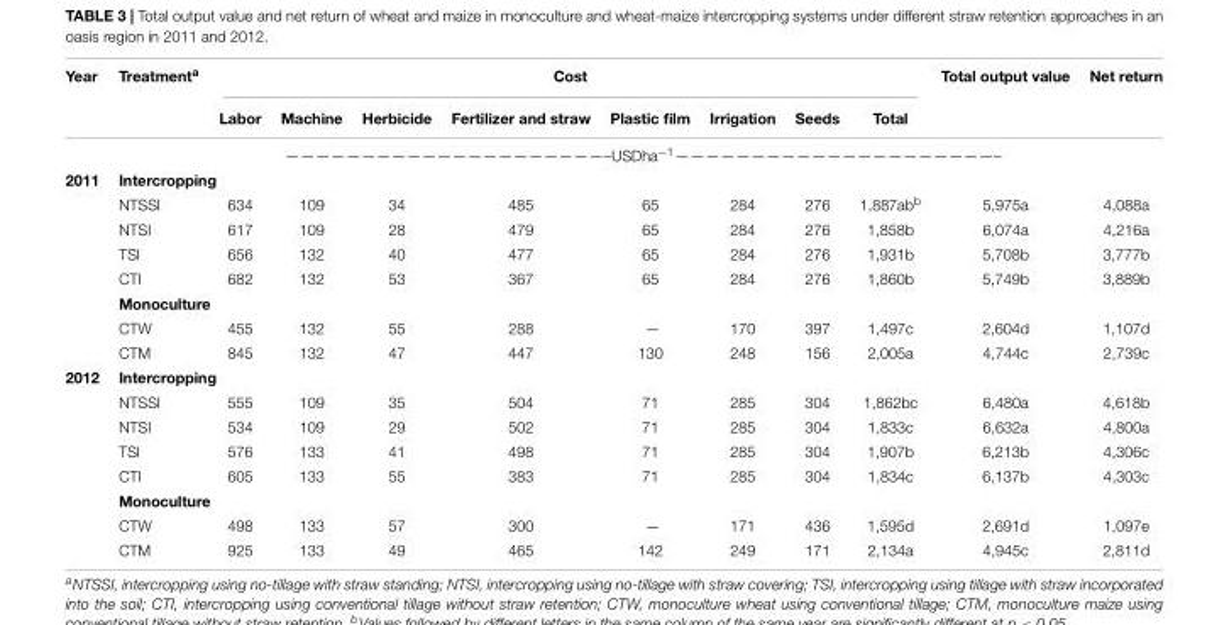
<table><thead><tr><td rowspan="2">Year</td><td rowspan="2">Treatment<sup>a</sup></td><td colspan="8">Cost</td><td rowspan="2">Total output value</td><td rowspan="2">Net return</td></tr><tr><td>Labor</td><td>Machine</td><td>Herbicide</td><td>Fertilizer and straw</td><td>Plastic film</td><td>Irrigation</td><td>Seeds</td><td>Total</td></tr></thead><tbody><tr><td></td><td colspan="11">—————————————————————–USDha<sup>−1</sup>—————————————————————–</td></tr><tr><td rowspan="8">2011</td><td colspan="11">Intercropping</td></tr><tr><td>NTSSI</td><td>634</td><td>109</td><td>34</td><td>485</td><td>65</td><td>284</td><td>276</td><td>1,887ab<sup>b</sup></td><td>5,975a</td><td>4,088a</td></tr><tr><td>NTSI</td><td>617</td><td>109</td><td>28</td><td>479</td><td>65</td><td>284</td><td>276</td><td>1,858b</td><td>6,074a</td><td>4,216a</td></tr><tr><td>TSI</td><td>656</td><td>132</td><td>40</td><td>477</td><td>65</td><td>284</td><td>276</td><td>1,931b</td><td>5,708b</td><td>3,777b</td></tr><tr><td>CTI</td><td>682</td><td>132</td><td>53</td><td>367</td><td>65</td><td>284</td><td>276</td><td>1,860b</td><td>5,749b</td><td>3,889b</td></tr><tr><td colspan="11">Monoculture</td></tr><tr><td>CTW</td><td>455</td><td>132</td><td>55</td><td>288</td><td>—</td><td>170</td><td>397</td><td>1,497c</td><td>2,604d</td><td>1,107d</td></tr><tr><td>CTM</td><td>845</td><td>132</td><td>47</td><td>447</td><td>130</td><td>248</td><td>156</td><td>2,005a</td><td>4,744c</td><td>2,739c</td></tr><tr><td rowspan="8">2012</td><td colspan="11">Intercropping</td></tr><tr><td>NTSSI</td><td>555</td><td>109</td><td>35</td><td>504</td><td>71</td><td>285</td><td>304</td><td>1,862bc</td><td>6,480a</td><td>4,618b</td></tr><tr><td>NTSI</td><td>534</td><td>109</td><td>29</td><td>502</td><td>71</td><td>285</td><td>304</td><td>1,833c</td><td>6,632a</td><td>4,800a</td></tr><tr><td>TSI</td><td>576</td><td>133</td><td>41</td><td>498</td><td>71</td><td>285</td><td>304</td><td>1,907b</td><td>6,213b</td><td>4,306c</td></tr><tr><td>CTI</td><td>605</td><td>133</td><td>55</td><td>383</td><td>71</td><td>285</td><td>304</td><td>1,834c</td><td>6,137b</td><td>4,303c</td></tr><tr><td colspan="11">Monoculture</td></tr><tr><td>CTW</td><td>498</td><td>133</td><td>57</td><td>300</td><td>—</td><td>171</td><td>436</td><td>1,595d</td><td>2,691d</td><td>1,097e</td></tr><tr><td>CTM</td><td>925</td><td>133</td><td>49</td><td>465</td><td>142</td><td>249</td><td>171</td><td>2,134a</td><td>4,945c</td><td>2,811d</td></tr></tbody></table>